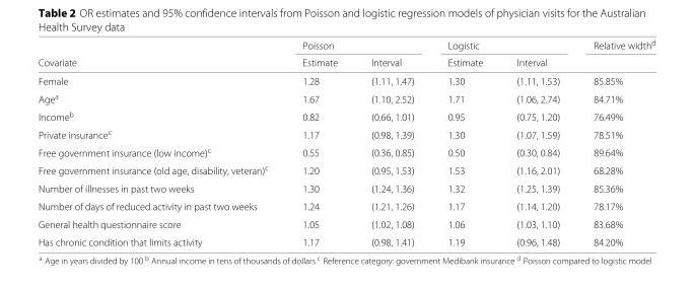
<table><thead><tr><td rowspan="2">Covariate</td><td colspan="2">Poisson</td><td colspan="2">Logistic</td><td rowspan="2">Relative width<sup>d</sup></td></tr><tr><td>Estimate</td><td>Interval</td><td>Estimate</td><td>Interval</td></tr></thead><tbody><tr><td>Female</td><td>1.28</td><td>(1.11, 1.47)</td><td>1.30</td><td>(1.11, 1.53)</td><td>85.85%</td></tr><tr><td>Age<sup>a</sup></td><td>1.67</td><td>(1.10, 2.52)</td><td>1.71</td><td>(1.06, 2.74)</td><td>84.71%</td></tr><tr><td>Income<sup>b</sup></td><td>0.82</td><td>(0.66, 1.01)</td><td>0.95</td><td>(0.75, 1.20)</td><td>76.49%</td></tr><tr><td>Private insurance<sup>c</sup></td><td>1.17</td><td>(0.98, 1.39)</td><td>1.30</td><td>(1.07, 1.59)</td><td>78.51%</td></tr><tr><td>Free government insurance (low income)<sup>c</sup></td><td>0.55</td><td>(0.36, 0.85)</td><td>0.50</td><td>(0.30, 0.84)</td><td>89.64%</td></tr><tr><td>Free government insurance (old age, disability, veteran)<sup>c</sup></td><td>1.20</td><td>(0.95, 1.53)</td><td>1.53</td><td>(1.16, 2.01)</td><td>68.28%</td></tr><tr><td>Number of illnesses in past two weeks</td><td>1.30</td><td>(1.24, 1.36)</td><td>1.32</td><td>(1.25, 1.39)</td><td>85.36%</td></tr><tr><td>Number of days of reduced activity in past two weeks</td><td>1.24</td><td>(1.21, 1.26)</td><td>1.17</td><td>(1.14, 1.20)</td><td>78.17%</td></tr><tr><td>General health questionnaire score</td><td>1.05</td><td>(1.02, 1.08)</td><td>1.06</td><td>(1.03, 1.10)</td><td>83.68%</td></tr><tr><td>Has chronic condition that limits activity</td><td>1.17</td><td>(0.98, 1.41)</td><td>1.19</td><td>(0.96, 1.48)</td><td>84.20%</td></tr></tbody></table>